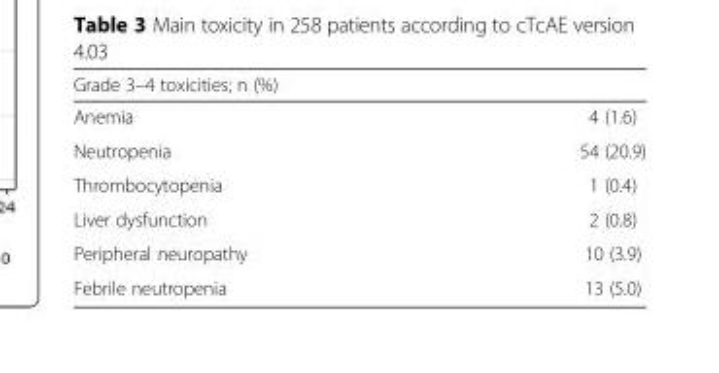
<table><thead><tr><td colspan="2">Grade 3–4 toxicities; n (%)</td></tr><tr><td>Anemia</td><td>4 (1.6)</td></tr></thead><tbody><tr><td>Neutropenia</td><td>54 (20.9)</td></tr><tr><td>Thrombocytopenia</td><td>1 (0.4)</td></tr><tr><td>Liver dysfunction</td><td>2 (0.8)</td></tr><tr><td>Peripheral neuropathy</td><td>10 (3.9)</td></tr><tr><td>Febrile neutropenia</td><td>13 (5.0)</td></tr></tbody></table>